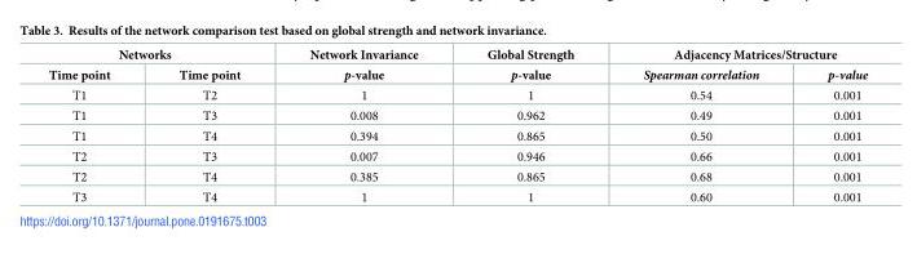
<table><thead><tr><td colspan="2">Networks</td><td rowspan="2">Network Invariance p-value</td><td rowspan="2">Global Strength p-value</td><td colspan="2">Adjacency Matrices/Structure</td></tr><tr><td>Time point</td><td>Time point</td><td>Spearman correlation</td><td>p-value</td></tr></thead><tbody><tr><td>T1</td><td>T2</td><td>1</td><td>1</td><td>0.54</td><td>0.001</td></tr><tr><td>T1</td><td>T3</td><td>0.008</td><td>0.962</td><td>0.49</td><td>0.001</td></tr><tr><td>T1</td><td>T4</td><td>0.394</td><td>0.865</td><td>0.50</td><td>0.001</td></tr><tr><td>T2</td><td>T3</td><td>0.007</td><td>0.946</td><td>0.66</td><td>0.001</td></tr><tr><td>T2</td><td>T4</td><td>0.385</td><td>0.865</td><td>0.68</td><td>0.001</td></tr><tr><td>T3</td><td>T4</td><td>1</td><td>1</td><td>0.60</td><td>0.001</td></tr></tbody></table>